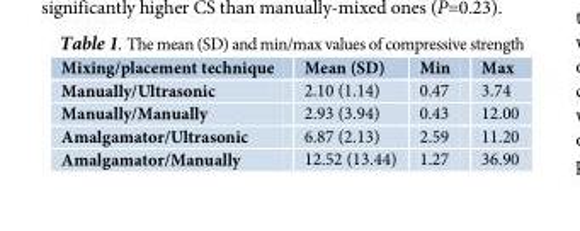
<table><thead><tr><td>Mixing/placement technique</td><td>Mean (SD)</td><td>Min</td><td>Max</td></tr></thead><tbody><tr><td>Manually/Ultrasonic</td><td>2.10 (1.14)</td><td>0.47</td><td>3.74</td></tr><tr><td>Manually/Manually</td><td>2.93 (3.94)</td><td>0.43</td><td>12.00</td></tr><tr><td>Amalgamator/Ultrasonic</td><td>6.87 (2.13)</td><td>2.59</td><td>11.20</td></tr><tr><td>Amalgamator/Manually</td><td>12.52 (13.44)</td><td>1.27</td><td>36.90</td></tr></tbody></table>